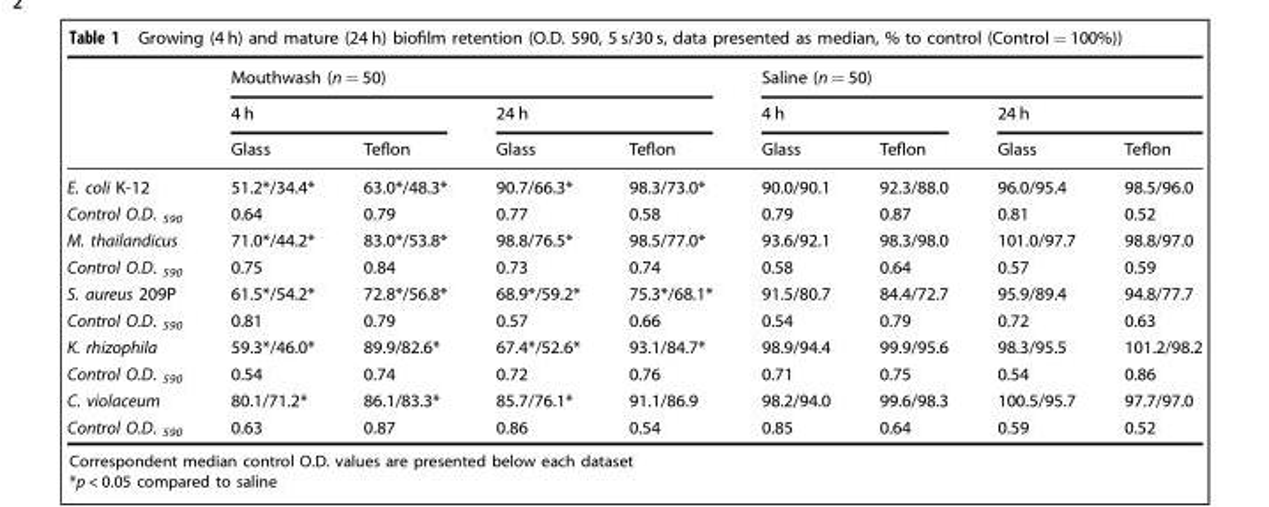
<table><thead><tr><td rowspan="3"></td><td colspan="4">Mouthwash (n = 50)</td><td colspan="4">Saline (n = 50)</td></tr><tr><td colspan="2">4 h</td><td colspan="2">24 h</td><td colspan="2">4 h</td><td colspan="2">24 h</td></tr><tr><td>Glass</td><td>Teflon</td><td>Glass</td><td>Teflon</td><td>Glass</td><td>Teflon</td><td>Glass</td><td>Teflon</td></tr></thead><tbody><tr><td>E. coli K-12</td><td>51.2*/34.4*</td><td>63.0*/48.3*</td><td>90.7/66.3*</td><td>98.3/73.0*</td><td>90.0/90.1</td><td>92.3/88.0</td><td>96.0/95.4</td><td>98.5/96.0</td></tr><tr><td>Control O.D. <sub>590</sub></td><td>0.64</td><td>0.79</td><td>0.77</td><td>0.58</td><td>0.79</td><td>0.87</td><td>0.81</td><td>0.52</td></tr><tr><td>M. thailandicus</td><td>71.0*/44.2*</td><td>83.0*/53.8*</td><td>98.8/76.5*</td><td>98.5/77.0*</td><td>93.6/92.1</td><td>98.3/98.0</td><td>101.0/97.7</td><td>98.8/97.0</td></tr><tr><td>Control O.D. <sub>590</sub></td><td>0.75</td><td>0.84</td><td>0.73</td><td>0.74</td><td>0.58</td><td>0.64</td><td>0.57</td><td>0.59</td></tr><tr><td>S. aureus 209P</td><td>61.5*/54.2*</td><td>72.8*/56.8*</td><td>68.9*/59.2*</td><td>75.3*/68.1*</td><td>91.5/80.7</td><td>84.4/72.7</td><td>95.9/89.4</td><td>94.8/77.7</td></tr><tr><td>Control O.D. <sub>590</sub></td><td>0.81</td><td>0.79</td><td>0.57</td><td>0.66</td><td>0.54</td><td>0.79</td><td>0.72</td><td>0.63</td></tr><tr><td>K. rhizophila</td><td>59.3*/46.0*</td><td>89.9/82.6*</td><td>67.4*/52.6*</td><td>93.1/84.7*</td><td>98.9/94.4</td><td>99.9/95.6</td><td>98.3/95.5</td><td>101.2/98.2</td></tr><tr><td>Control O.D. <sub>590</sub></td><td>0.54</td><td>0.74</td><td>0.72</td><td>0.76</td><td>0.71</td><td>0.75</td><td>0.54</td><td>0.86</td></tr><tr><td>C. violaceum</td><td>80.1/71.2*</td><td>86.1/83.3*</td><td>85.7/76.1*</td><td>91.1/86.9</td><td>98.2/94.0</td><td>99.6/98.3</td><td>100.5/95.7</td><td>97.7/97.0</td></tr><tr><td>Control O.D. <sub>590</sub></td><td>0.63</td><td>0.87</td><td>0.86</td><td>0.54</td><td>0.85</td><td>0.64</td><td>0.59</td><td>0.52</td></tr></tbody></table>